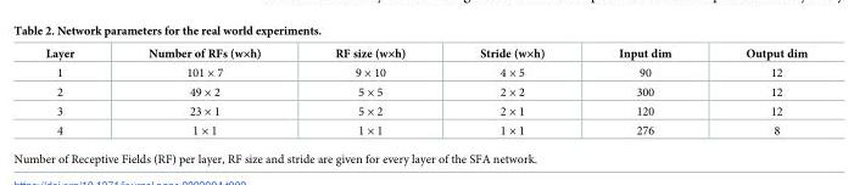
<table><thead><tr><td>Layer</td><td>Number of RFs (w×h)</td><td>RF size (w×h)</td><td>Stride (w×h)</td><td>Input dim</td><td>Output dim</td></tr></thead><tbody><tr><td>1</td><td>101 × 7</td><td>9 × 10</td><td>4 × 5</td><td>90</td><td>12</td></tr><tr><td>2</td><td>49 × 2</td><td>5 × 5</td><td>2 × 2</td><td>300</td><td>12</td></tr><tr><td>3</td><td>23 × 1</td><td>5 × 2</td><td>2 × 1</td><td>120</td><td>12</td></tr><tr><td>4</td><td>1 × 1</td><td>1 × 1</td><td>1 × 1</td><td>276</td><td>8</td></tr></tbody></table>